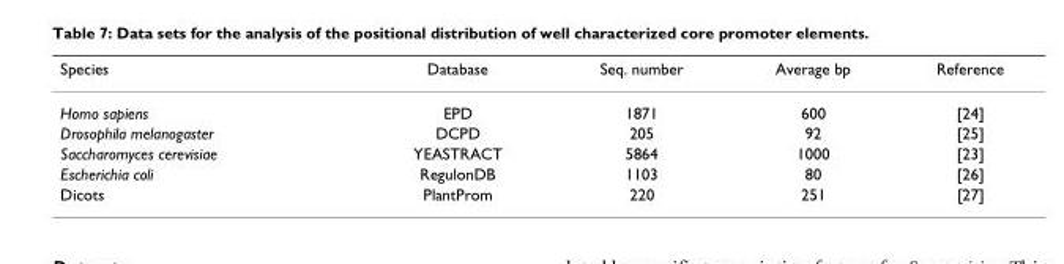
<table><thead><tr><td>Species</td><td>Database</td><td>Seq. number</td><td>Average bp</td><td>Reference</td></tr></thead><tbody><tr><td>Homo sapiens</td><td>EPD</td><td>1871</td><td>600</td><td>[24]</td></tr><tr><td>Drosophila melanogaster</td><td>DCPD</td><td>205</td><td>92</td><td>[25]</td></tr><tr><td>Saccharomyces cerevisiae</td><td>YEASTRACT</td><td>5864</td><td>1000</td><td>[23]</td></tr><tr><td>Escherichia coli</td><td>RegulonDB</td><td>1103</td><td>80</td><td>[26]</td></tr><tr><td>Dicots</td><td>PlantProm</td><td>220</td><td>251</td><td>[27]</td></tr></tbody></table>